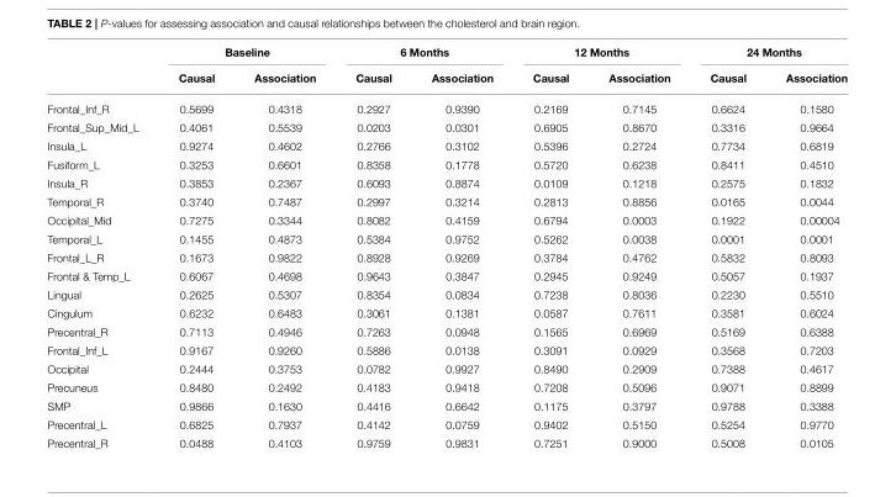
<table><thead><tr><td rowspan="2"></td><td colspan="2">Baseline</td><td colspan="2">6 Months</td><td colspan="2">12 Months</td><td colspan="2">24 Months</td></tr><tr><td>Causal</td><td>Association</td><td>Causal</td><td>Association</td><td>Causal</td><td>Association</td><td>Causal</td><td>Association</td></tr></thead><tbody><tr><td>Frontal_Inf_R</td><td>0.5699</td><td>0.4318</td><td>0.2927</td><td>0.9390</td><td>0.2169</td><td>0.7145</td><td>0.6624</td><td>0.1580</td></tr><tr><td>Frontal_Sup_Mid_L</td><td>0.4061</td><td>0.5539</td><td>0.0203</td><td>0.0301</td><td>0.6905</td><td>0.8670</td><td>0.3316</td><td>0.9664</td></tr><tr><td>Insula_L</td><td>0.9274</td><td>0.4602</td><td>0.2766</td><td>0.3102</td><td>0.5396</td><td>0.2724</td><td>0.7734</td><td>0.6819</td></tr><tr><td>Fusiform_L</td><td>0.3253</td><td>0.6601</td><td>0.8358</td><td>0.1778</td><td>0.5720</td><td>0.6238</td><td>0.8411</td><td>0.4510</td></tr><tr><td>Insula_R</td><td>0.3853</td><td>0.2367</td><td>0.6093</td><td>0.8874</td><td>0.0109</td><td>0.1218</td><td>0.2575</td><td>0.1832</td></tr><tr><td>Temporal_R</td><td>0.3740</td><td>0.7487</td><td>0.2997</td><td>0.3214</td><td>0.2813</td><td>0.8856</td><td>0.0165</td><td>0.0044</td></tr><tr><td>Occipital_Mid</td><td>0.7275</td><td>0.3344</td><td>0.8082</td><td>0.4159</td><td>0.6794</td><td>0.0003</td><td>0.1922</td><td>0.00004</td></tr><tr><td>Temporal_L</td><td>0.1455</td><td>0.4873</td><td>0.5384</td><td>0.9752</td><td>0.5262</td><td>0.0038</td><td>0.0001</td><td>0.0001</td></tr><tr><td>Frontal_L_R</td><td>0.1673</td><td>0.9822</td><td>0.8928</td><td>0.9269</td><td>0.3784</td><td>0.4762</td><td>0.5832</td><td>0.8093</td></tr><tr><td>Frontal &amp; Temp_L</td><td>0.6067</td><td>0.4698</td><td>0.9643</td><td>0.3847</td><td>0.2945</td><td>0.9249</td><td>0.5057</td><td>0.1937</td></tr><tr><td>Lingual</td><td>0.2625</td><td>0.5307</td><td>0.8354</td><td>0.0834</td><td>0.7238</td><td>0.8036</td><td>0.2230</td><td>0.5510</td></tr><tr><td>Cingulum</td><td>0.6232</td><td>0.6483</td><td>0.3061</td><td>0.1381</td><td>0.0587</td><td>0.7611</td><td>0.3581</td><td>0.6024</td></tr><tr><td>Precentral_R</td><td>0.7113</td><td>0.4946</td><td>0.7263</td><td>0.0948</td><td>0.1565</td><td>0.6969</td><td>0.5169</td><td>0.6388</td></tr><tr><td>Frontal_Inf_L</td><td>0.9167</td><td>0.9260</td><td>0.5886</td><td>0.0138</td><td>0.3091</td><td>0.0929</td><td>0.3568</td><td>0.7203</td></tr><tr><td>Occipital</td><td>0.2444</td><td>0.3753</td><td>0.0782</td><td>0.9927</td><td>0.8490</td><td>0.2909</td><td>0.7388</td><td>0.4617</td></tr><tr><td>Precuneus</td><td>0.8480</td><td>0.2492</td><td>0.4183</td><td>0.9418</td><td>0.7208</td><td>0.5096</td><td>0.9071</td><td>0.8899</td></tr><tr><td>SMP</td><td>0.9866</td><td>0.1630</td><td>0.4416</td><td>0.6642</td><td>0.1175</td><td>0.3797</td><td>0.9788</td><td>0.3388</td></tr><tr><td>Precentral_L</td><td>0.6825</td><td>0.7937</td><td>0.4142</td><td>0.0759</td><td>0.9402</td><td>0.5150</td><td>0.5254</td><td>0.9770</td></tr><tr><td>Precentral_R</td><td>0.0488</td><td>0.4103</td><td>0.9759</td><td>0.9831</td><td>0.7251</td><td>0.9000</td><td>0.5008</td><td>0.0105</td></tr></tbody></table>